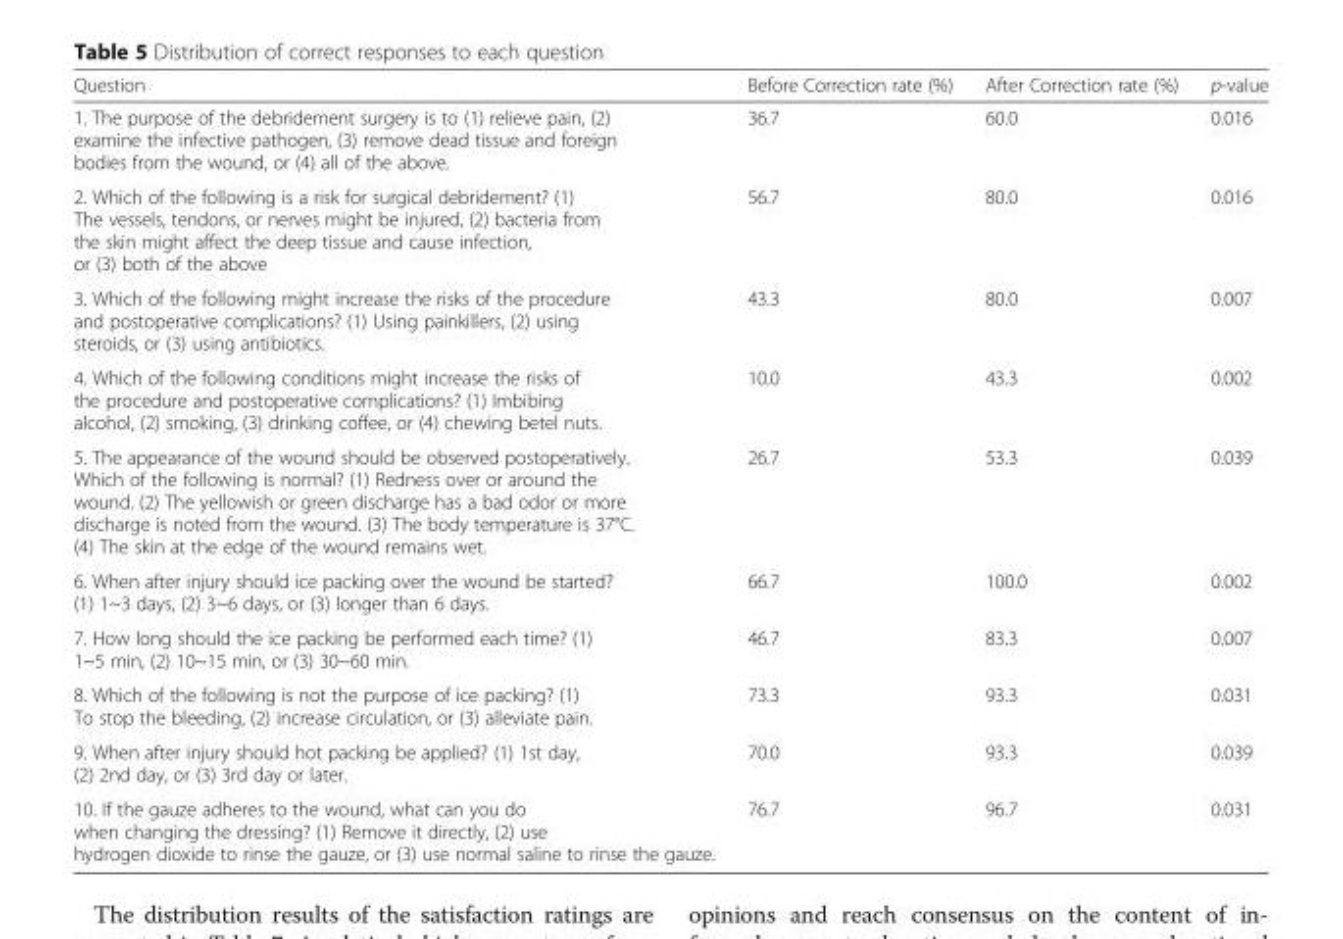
<table><thead><tr><td>Question</td><td>Before Correction rate (%)</td><td>After Correction rate (%)</td><td>p-value</td></tr></thead><tbody><tr><td>1. The purpose of the debridement surgery is to (1) relieve pain, (2) examine the infective pathogen, (3) remove dead tissue and foreign bodies from the wound, or (4) all of the above.</td><td>36.7</td><td>60.0</td><td>0.016</td></tr><tr><td>2. Which of the following is a risk for surgical debridement? (1) The vessels, tendons, or nerves might be injured, (2) bacteria from the skin might affect the deep tissue and cause infection, or (3) both of the above</td><td>56.7</td><td>80.0</td><td>0.016</td></tr><tr><td>3. Which of the following might increase the risks of the procedure and postoperative complications? (1) Using painkillers, (2) using steroids, or (3) using antibiotics.</td><td>43.3</td><td>80.0</td><td>0.007</td></tr><tr><td>4. Which of the following conditions might increase the risks of the procedure and postoperative complications? (1) Imbibing alcohol, (2) smoking, (3) drinking coffee, or (4) chewing betel nuts.</td><td>10.0</td><td>43.3</td><td>0.002</td></tr><tr><td>5. The appearance of the wound should be observed postoperatively. Which of the following is normal? (1) Redness over or around the wound. (2) The yellowish or green discharge has a bad odor or more discharge is noted from the wound. (3) The body temperature is 37°C. (4) The skin at the edge of the wound remains wet.</td><td>26.7</td><td>53.3</td><td>0.039</td></tr><tr><td>6. When after injury should ice packing over the wound be started? (1) 1~3 days, (2) 3~6 days, or (3) longer than 6 days.</td><td>66.7</td><td>100.0</td><td>0.002</td></tr><tr><td>7. How long should the ice packing be performed each time? (1) 1~5 min, (2) 10~15 min, or (3) 30~60 min.</td><td>46.7</td><td>83.3</td><td>0.007</td></tr><tr><td>8. Which of the following is not the purpose of ice packing? (1) To stop the bleeding, (2) increase circulation, or (3) alleviate pain.</td><td>73.3</td><td>93.3</td><td>0.031</td></tr><tr><td>9. When after injury should hot packing be applied? (1) 1st day, (2) 2nd day, or (3) 3rd day or later.</td><td>70.0</td><td>93.3</td><td>0.039</td></tr><tr><td>10. If the gauze adheres to the wound, what can you do when changing the dressing? (1) Remove it directly, (2) use hydrogen dioxide to rinse the gauze, or (3) use normal saline to rinse the gauze.</td><td>76.7</td><td>96.7</td><td>0.031</td></tr></tbody></table>